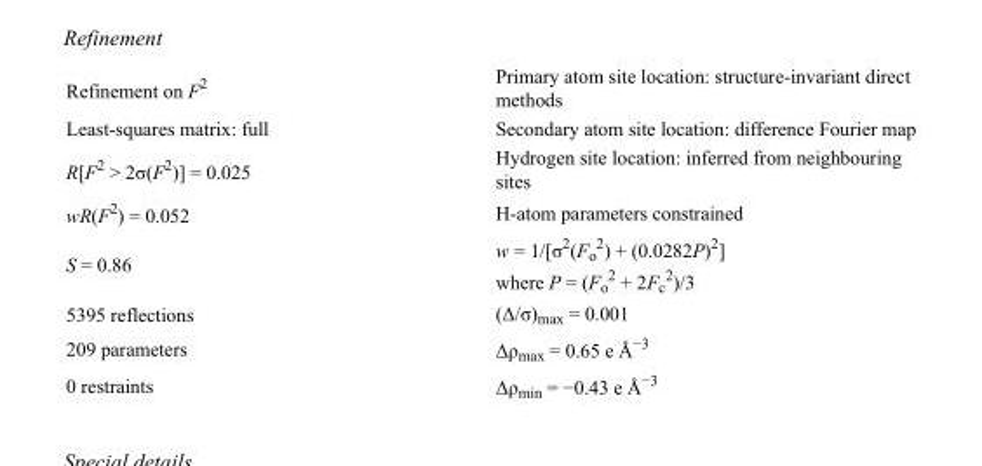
<table><tbody><tr><td>Refinement on F<sup>2</sup></td><td>Primary atom site location: structure-invariant direct methods</td></tr><tr><td>Least-squares matrix: full</td><td>Secondary atom site location: difference Fourier map</td></tr><tr><td>R[F<sup>2</sup> &gt; 2σ(F<sup>2</sup>)] = 0.025</td><td>Hydrogen site location: inferred from neighbouring sites</td></tr><tr><td>wR(F<sup>2</sup>) = 0.052</td><td>H-atom parameters constrained</td></tr><tr><td>S = 0.86</td><td>w = 1/[σ<sup>2</sup>(F<sub>o</sub> <sup>2</sup>) + (0.0282P)<sup>2</sup>] where P = (F<sub>o</sub> <sup>2</sup> + 2F<sub>c</sub> <sup>2</sup>)/3</td></tr><tr><td>5395 reflections</td><td>(Δ/σ)<sub>max</sub> = 0.001</td></tr><tr><td>209 parameters</td><td>Δρ<sub>max</sub> = 0.65 e Å<sup>−3</sup></td></tr><tr><td>0 restraints</td><td>Δρ<sub>min</sub> = −0.43 e Å<sup>−3</sup></td></tr></tbody></table>